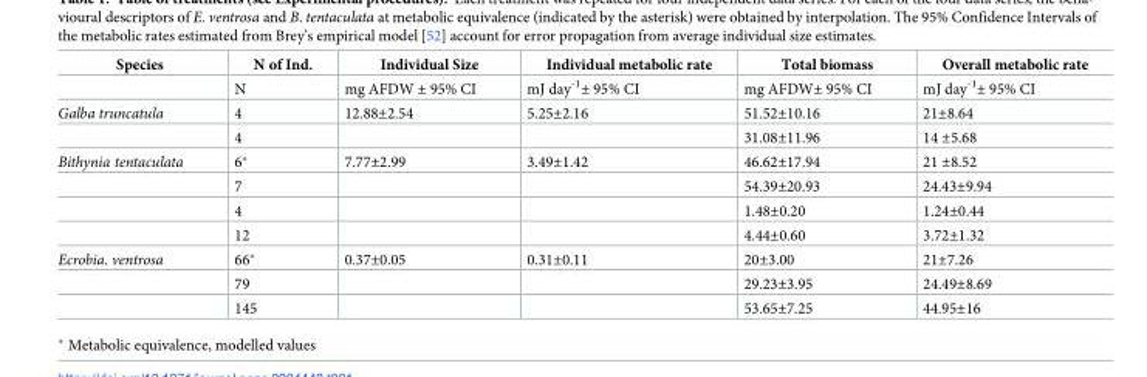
<table><thead><tr><td>Species</td><td>N of Ind.</td><td>Individual Size</td><td>Individual metabolic rate</td><td>Total biomass</td><td>Overall metabolic rate</td></tr></thead><tbody><tr><td></td><td>N</td><td>mg AFDW ± 95% CI</td><td>mJ day<sup>-1</sup>± 95% CI</td><td>mg AFDW± 95% CI</td><td>mJ day<sup>-1</sup>± 95% CI</td></tr><tr><td rowspan="2">Galba truncatula</td><td>4</td><td>12.88±2.54</td><td>5.25±2.16</td><td>51.52±10.16</td><td>21±8.64</td></tr><tr><td>4</td><td></td><td></td><td>31.08±11.96</td><td>14 ±5.68</td></tr><tr><td rowspan="4">Bithynia tentaculata</td><td>6*</td><td>7.77±2.99</td><td>3.49±1.42</td><td>46.62±17.94</td><td>21 ±8.52</td></tr><tr><td>7</td><td></td><td></td><td>54.39±20.93</td><td>24.43±9.94</td></tr><tr><td>4</td><td></td><td></td><td>1.48±0.20</td><td>1.24±0.44</td></tr><tr><td>12</td><td></td><td></td><td>4.44±0.60</td><td>3.72±1.32</td></tr><tr><td rowspan="3">Ecrobia. ventrosa</td><td>66*</td><td>0.37±0.05</td><td>0.31±0.11</td><td>20±3.00</td><td>21±7.26</td></tr><tr><td>79</td><td></td><td></td><td>29.23±3.95</td><td>24.49±8.69</td></tr><tr><td>145</td><td></td><td></td><td>53.65±7.25</td><td>44.95±16</td></tr></tbody></table>